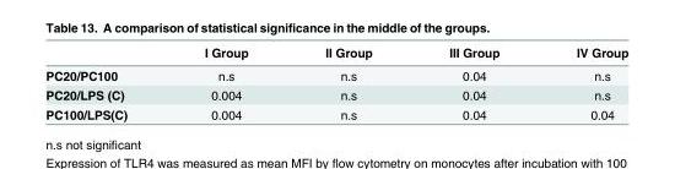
<table><thead><tr><td></td><td>I Group</td><td>II Group</td><td>III Group</td><td>IV Group</td></tr></thead><tbody><tr><td>PC20/PC100</td><td>n.s</td><td>n.s</td><td>0.04</td><td>n.s</td></tr><tr><td>PC20/LPS (C)</td><td>0.004</td><td>n.s</td><td>0.04</td><td>n.s</td></tr><tr><td>PC100/LPS(C)</td><td>0.004</td><td>n.s</td><td>0.04</td><td>0.04</td></tr></tbody></table>